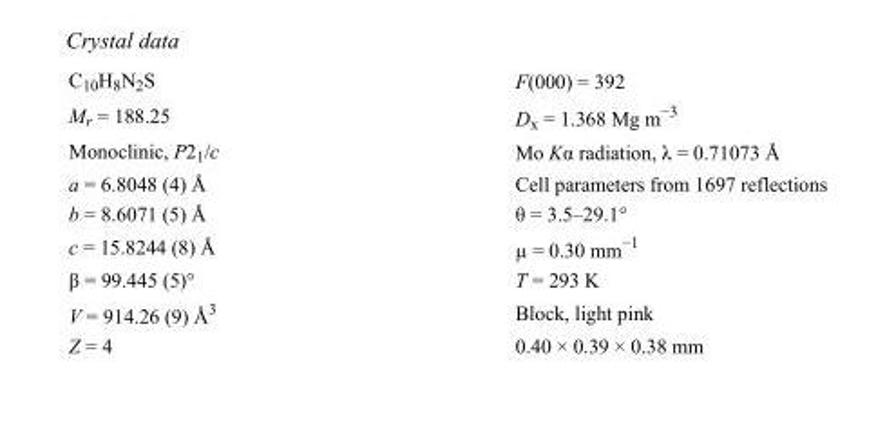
<table><tbody><tr><td>C<sub>10</sub>H<sub>8</sub>N<sub>2</sub>S</td><td>F(000) = 392</td></tr><tr><td>M<sub>r</sub> = 188.25</td><td>D<sub>x</sub> = 1.368 Mg m<sup>−3</sup></td></tr><tr><td>Monoclinic, P2<sub>1</sub>/c</td><td>Mo Kα radiation, λ = 0.71073 Å</td></tr><tr><td>a = 6.8048 (4) Å</td><td>Cell parameters from 1697 reflections</td></tr><tr><td>b = 8.6071 (5) Å</td><td>θ = 3.5–29.1°</td></tr><tr><td>c = 15.8244 (8) Å</td><td>µ = 0.30 mm<sup>−1</sup></td></tr><tr><td>β = 99.445 (5)°</td><td>T = 293 K</td></tr><tr><td>V = 914.26 (9) Å<sup>3</sup></td><td>Block, light pink</td></tr><tr><td>Z = 4</td><td>0.40 × 0.39 × 0.38 mm</td></tr></tbody></table>